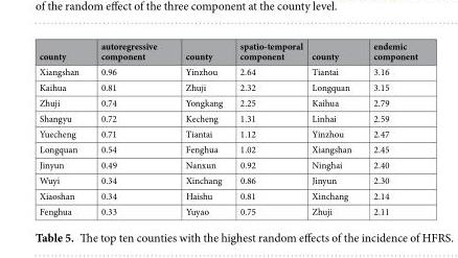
<table><thead><tr><td>county</td><td>autoregressive component</td><td>county</td><td>spatio-temporal component</td><td>county</td><td>endemic component</td></tr></thead><tbody><tr><td>Xiangshan</td><td>0.96</td><td>Yinzhou</td><td>2.64</td><td>Tiantai</td><td>3.16</td></tr><tr><td>Kaihua</td><td>0.81</td><td>Zhuji</td><td>2.32</td><td>Longquan</td><td>3.15</td></tr><tr><td>Zhuji</td><td>0.74</td><td>Yongkang</td><td>2.25</td><td>Kaihua</td><td>2.79</td></tr><tr><td>Shangyu</td><td>0.72</td><td>Kecheng</td><td>1.31</td><td>Linhai</td><td>2.59</td></tr><tr><td>Yuecheng</td><td>0.71</td><td>Tiantai</td><td>1.12</td><td>Yinzhou</td><td>2.47</td></tr><tr><td>Longquan</td><td>0.54</td><td>Fenghua</td><td>1.02</td><td>Xiangshan</td><td>2.45</td></tr><tr><td>Jinyun</td><td>0.49</td><td>Nanxun</td><td>0.92</td><td>Ninghai</td><td>2.40</td></tr><tr><td>Wuyi</td><td>0.34</td><td>Xinchang</td><td>0.86</td><td>Jinyun</td><td>2.30</td></tr><tr><td>Xiaoshan</td><td>0.34</td><td>Haishu</td><td>0.81</td><td>Xinchang</td><td>2.14</td></tr><tr><td>Fenghua</td><td>0.33</td><td>Yuyao</td><td>0.75</td><td>Zhuji</td><td>2.11</td></tr></tbody></table>